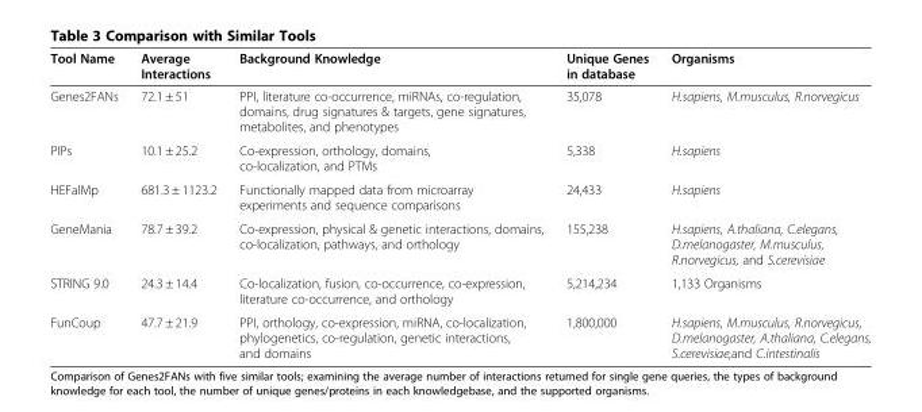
<table><thead><tr><td>Tool Name</td><td>Average Interactions</td><td>Background Knowledge</td><td>Unique Genes in database</td><td>Organisms</td></tr></thead><tbody><tr><td>Genes2FANs</td><td>72.1 ± 51</td><td>PPI, literature co-occurrence, miRNAs, co-regulation, domains, drug signatures &amp; targets, gene signatures, metabolites, and phenotypes</td><td>35,078</td><td>H.sapiens, M.musculus, R.norvegicus</td></tr><tr><td>PIPs</td><td>10.1 ± 25.2</td><td>Co-expression, orthology, domains, co-localization, and PTMs</td><td>5,338</td><td>H.sapiens</td></tr><tr><td>HEFalMp</td><td>681.3 ± 1123.2</td><td>Functionally mapped data from microarray experiments and sequence comparisons</td><td>24,433</td><td>H.sapiens</td></tr><tr><td>GeneMania</td><td>78.7 ± 39.2</td><td>Co-expression, physical &amp; genetic interactions, domains, co-localization, pathways, and orthology</td><td>155,238</td><td>H.sapiens, A.thaliana, C.elegans, D.melanogaster, M.musculus, R.norvegicus, and S.cerevisiae</td></tr><tr><td>STRING 9.0</td><td>24.3 ± 14.4</td><td>Co-localization, fusion, co-occurrence, co-expression, literature co-occurrence, and orthology</td><td>5,214,234</td><td>1,133 Organisms</td></tr><tr><td>FunCoup</td><td>47.7 ± 21.9</td><td>PPI, orthology, co-expression, miRNA, co-localization, phylogenetics, co-regulation, genetic interactions, and domains</td><td>1,800,000</td><td>H.sapiens, M.musculus, R.norvegicus, D.melanogaster, A.thaliana, C.elegans, S.cerevisiae,and C.intestinalis</td></tr></tbody></table>